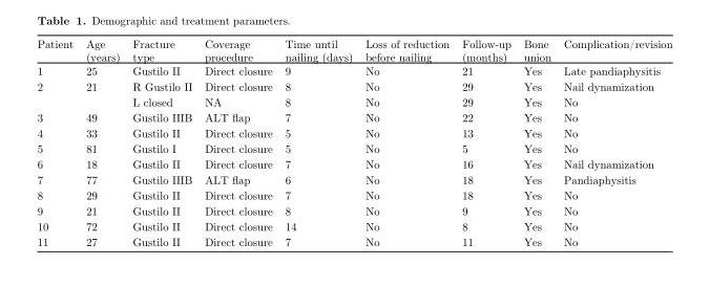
<table><thead><tr><td>Patient</td><td>Age (years)</td><td>Fracture type</td><td>Coverage procedure</td><td>Time until nailing (days)</td><td>Loss of reduction before nailing</td><td>Follow-up (months)</td><td>Bone union</td><td>Complication/revision</td></tr></thead><tbody><tr><td>1</td><td>25</td><td>Gustilo II</td><td>Direct closure</td><td>9</td><td>No</td><td>21</td><td>Yes</td><td>Late pandiaphysitis</td></tr><tr><td rowspan="2">2</td><td>21</td><td>R Gustilo II</td><td>Direct closure</td><td>8</td><td>No</td><td>29</td><td>Yes</td><td>Nail dynamization</td></tr><tr><td></td><td>L closed</td><td>NA</td><td>8</td><td>No</td><td>29</td><td>Yes</td><td>No</td></tr><tr><td>3</td><td>49</td><td>Gustilo IIIB</td><td>ALT flap</td><td>7</td><td>No</td><td>22</td><td>Yes</td><td>No</td></tr><tr><td>4</td><td>33</td><td>Gustilo II</td><td>Direct closure</td><td>5</td><td>No</td><td>13</td><td>Yes</td><td>No</td></tr><tr><td>5</td><td>81</td><td>Gustilo I</td><td>Direct closure</td><td>5</td><td>No</td><td>5</td><td>Yes</td><td>No</td></tr><tr><td>6</td><td>18</td><td>Gustilo II</td><td>Direct closure</td><td>7</td><td>No</td><td>16</td><td>Yes</td><td>Nail dynamization</td></tr><tr><td>7</td><td>77</td><td>Gustilo IIIB</td><td>ALT flap</td><td>6</td><td>No</td><td>18</td><td>Yes</td><td>Pandiaphysitis</td></tr><tr><td>8</td><td>29</td><td>Gustilo II</td><td>Direct closure</td><td>7</td><td>No</td><td>18</td><td>Yes</td><td>No</td></tr><tr><td>9</td><td>21</td><td>Gustilo II</td><td>Direct closure</td><td>8</td><td>No</td><td>9</td><td>Yes</td><td>No</td></tr><tr><td>10</td><td>72</td><td>Gustilo II</td><td>Direct closure</td><td>14</td><td>No</td><td>8</td><td>Yes</td><td>No</td></tr><tr><td>11</td><td>27</td><td>Gustilo II</td><td>Direct closure</td><td>7</td><td>No</td><td>11</td><td>Yes</td><td>No</td></tr></tbody></table>